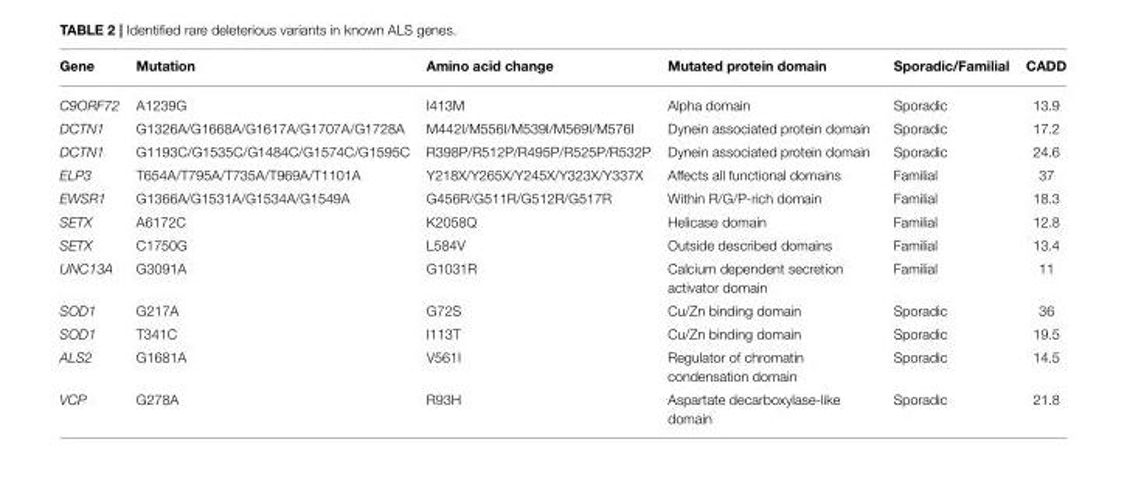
<table><thead><tr><td>Gene</td><td>Mutation</td><td>Amino acid change</td><td>Mutated protein domain</td><td>Sporadic/Familial</td><td>CADD</td></tr></thead><tbody><tr><td>C9ORF72</td><td>A1239G</td><td>I413M</td><td>Alpha domain</td><td>Sporadic</td><td>13.9</td></tr><tr><td>DCTN1</td><td>G1326A/G1668A/G1617A/G1707A/G1728A</td><td>M442I/M556I/M539I/M569I/M576I</td><td>Dynein associated protein domain</td><td>Sporadic</td><td>17.2</td></tr><tr><td>DCTN1</td><td>G1193C/G1535C/G1484C/G1574C/G1595C</td><td>R398P/R512P/R495P/R525P/R532P</td><td>Dynein associated protein domain</td><td>Sporadic</td><td>24.6</td></tr><tr><td>ELP3</td><td>T654A/T795A/T735A/T969A/T1101A</td><td>Y218X/Y265X/Y245X/Y323X/Y337X</td><td>Affects all functional domains</td><td>Familial</td><td>37</td></tr><tr><td>EWSR1</td><td>G1366A/G1531A/G1534A/G1549A</td><td>G456R/G511R/G512R/G517R</td><td>Within R/G/P-rich domain</td><td>Familial</td><td>18.3</td></tr><tr><td>SETX</td><td>A6172C</td><td>K2058Q</td><td>Helicase domain</td><td>Familial</td><td>12.8</td></tr><tr><td>SETX</td><td>C1750G</td><td>L584V</td><td>Outside described domains</td><td>Familial</td><td>13.4</td></tr><tr><td>UNC13A</td><td>G3091A</td><td>G1031R</td><td>Calcium dependent secretion activator domain</td><td>Familial</td><td>11</td></tr><tr><td>SOD1</td><td>G217A</td><td>G72S</td><td>Cu/Zn binding domain</td><td>Sporadic</td><td>36</td></tr><tr><td>SOD1</td><td>T341C</td><td>I113T</td><td>Cu/Zn binding domain</td><td>Sporadic</td><td>19.5</td></tr><tr><td>ALS2</td><td>G1681A</td><td>V561I</td><td>Regulator of chromatin condensation domain</td><td>Sporadic</td><td>14.5</td></tr><tr><td>VCP</td><td>G278A</td><td>R93H</td><td>Aspartate decarboxylase-like domain</td><td>Sporadic</td><td>21.8</td></tr></tbody></table>